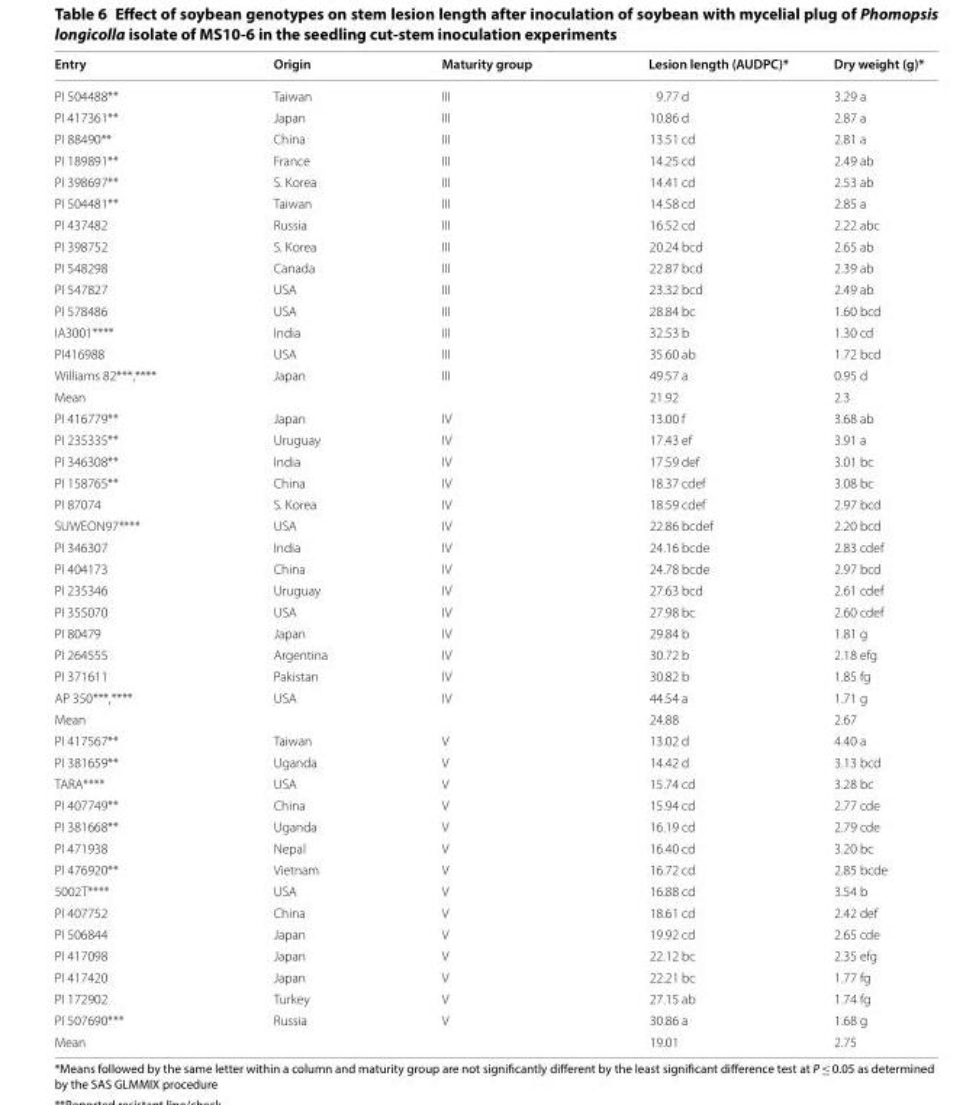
<table><thead><tr><td>Entry</td><td>Origin</td><td>Maturity group</td><td>Lesion length (AUDPC)*</td><td>Dry weight (g)*</td></tr></thead><tbody><tr><td>PI 504488**</td><td>Taiwan</td><td>III</td><td>9.77 d</td><td>3.29 a</td></tr><tr><td>PI 417361**</td><td>Japan</td><td>III</td><td>10.86 d</td><td>2.87 a</td></tr><tr><td>PI 88490**</td><td>China</td><td>III</td><td>13.51 cd</td><td>2.81 a</td></tr><tr><td>PI 189891**</td><td>France</td><td>III</td><td>14.25 cd</td><td>2.49 ab</td></tr><tr><td>PI 398697**</td><td>S. Korea</td><td>III</td><td>14.41 cd</td><td>2.53 ab</td></tr><tr><td>PI 504481**</td><td>Taiwan</td><td>III</td><td>14.58 cd</td><td>2.85 a</td></tr><tr><td>PI 437482</td><td>Russia</td><td>III</td><td>16.52 cd</td><td>2.22 abc</td></tr><tr><td>PI 398752</td><td>S. Korea</td><td>III</td><td>20.24 bcd</td><td>2.65 ab</td></tr><tr><td>PI 548298</td><td>Canada</td><td>III</td><td>22.87 bcd</td><td>2.39 ab</td></tr><tr><td>PI 547827</td><td>USA</td><td>III</td><td>23.32 bcd</td><td>2.49 ab</td></tr><tr><td>PI 578486</td><td>USA</td><td>III</td><td>28.84 bc</td><td>1.60 bcd</td></tr><tr><td>IA3001****</td><td>India</td><td>III</td><td>32.53 b</td><td>1.30 cd</td></tr><tr><td>PI416988</td><td>USA</td><td>III</td><td>35.60 ab</td><td>1.72 bcd</td></tr><tr><td>Williams 82***,****</td><td>Japan</td><td>III</td><td>49.57 a</td><td>0.95 d</td></tr><tr><td>Mean</td><td></td><td></td><td>21.92</td><td>2.3</td></tr><tr><td>PI 416779**</td><td>Japan</td><td>IV</td><td>13.00 f</td><td>3.68 ab</td></tr><tr><td>PI 235335**</td><td>Uruguay</td><td>IV</td><td>17.43 ef</td><td>3.91 a</td></tr><tr><td>PI 346308**</td><td>India</td><td>IV</td><td>17.59 def</td><td>3.01 bc</td></tr><tr><td>PI 158765**</td><td>China</td><td>IV</td><td>18.37 cdef</td><td>3.08 bc</td></tr><tr><td>PI 87074</td><td>S. Korea</td><td>IV</td><td>18.59 cdef</td><td>2.97 bcd</td></tr><tr><td>SUWEON97****</td><td>USA</td><td>IV</td><td>22.86 bcdef</td><td>2.20 bcd</td></tr><tr><td>PI 346307</td><td>India</td><td>IV</td><td>24.16 bcde</td><td>2.83 cdef</td></tr><tr><td>PI 404173</td><td>China</td><td>IV</td><td>24.78 bcde</td><td>2.97 bcd</td></tr><tr><td>PI 235346</td><td>Uruguay</td><td>IV</td><td>27.63 bcd</td><td>2.61 cdef</td></tr><tr><td>PI 355070</td><td>USA</td><td>IV</td><td>27.98 bc</td><td>2.60 cdef</td></tr><tr><td>PI 80479</td><td>Japan</td><td>IV</td><td>29.84 b</td><td>1.81 g</td></tr><tr><td>PI 264555</td><td>Argentina</td><td>IV</td><td>30.72 b</td><td>2.18 efg</td></tr><tr><td>PI 371611</td><td>Pakistan</td><td>IV</td><td>30.82 b</td><td>1.85 fg</td></tr><tr><td>AP 350***,****</td><td>USA</td><td>IV</td><td>44.54 a</td><td>1.71 g</td></tr><tr><td>Mean</td><td></td><td></td><td>24.88</td><td>2.67</td></tr><tr><td>PI 417567**</td><td>Taiwan</td><td>V</td><td>13.02 d</td><td>4.40 a</td></tr><tr><td>PI 381659**</td><td>Uganda</td><td>V</td><td>14.42 d</td><td>3.13 bcd</td></tr><tr><td>TARA****</td><td>USA</td><td>V</td><td>15.74 cd</td><td>3.28 bc</td></tr><tr><td>PI 407749**</td><td>China</td><td>V</td><td>15.94 cd</td><td>2.77 cde</td></tr><tr><td>PI 381668**</td><td>Uganda</td><td>V</td><td>16.19 cd</td><td>2.79 cde</td></tr><tr><td>PI 471938</td><td>Nepal</td><td>V</td><td>16.40 cd</td><td>3.20 bc</td></tr><tr><td>PI 476920**</td><td>Vietnam</td><td>V</td><td>16.72 cd</td><td>2.85 bcde</td></tr><tr><td>5002T****</td><td>USA</td><td>V</td><td>16.88 cd</td><td>3.54 b</td></tr><tr><td>PI 407752</td><td>China</td><td>V</td><td>18.61 cd</td><td>2.42 def</td></tr><tr><td>PI 506844</td><td>Japan</td><td>V</td><td>19.92 cd</td><td>2.65 cde</td></tr><tr><td>PI 417098</td><td>Japan</td><td>V</td><td>22.12 bc</td><td>2.35 efg</td></tr><tr><td>PI 417420</td><td>Japan</td><td>V</td><td>22.21 bc</td><td>1.77 fg</td></tr><tr><td>PI 172902</td><td>Turkey</td><td>V</td><td>27.15 ab</td><td>1.74 fg</td></tr><tr><td>PI 507690***</td><td>Russia</td><td>V</td><td>30.86 a</td><td>1.68 g</td></tr><tr><td>Mean</td><td></td><td></td><td>19.01</td><td>2.75</td></tr></tbody></table>